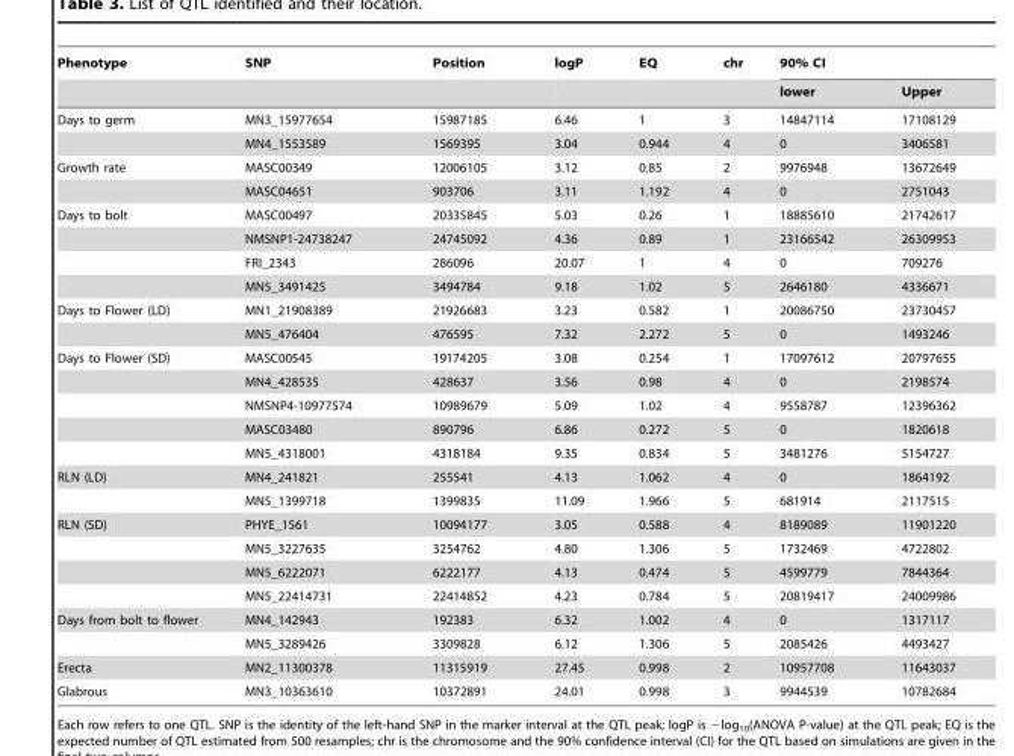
<table><thead><tr><td rowspan="2">Phenotype</td><td rowspan="2">SNP</td><td rowspan="2">Position</td><td rowspan="2">logP</td><td rowspan="2">EQ</td><td rowspan="2">chr</td><td colspan="2">90% CI</td></tr><tr><td>lower</td><td>Upper</td></tr></thead><tbody><tr><td rowspan="2">Days to germ</td><td>MN3_15977654</td><td>15987185</td><td>6.46</td><td>1</td><td>3</td><td>14847114</td><td>17108129</td></tr><tr><td>MN4_1553589</td><td>1569395</td><td>3.04</td><td>0.944</td><td>4</td><td>0</td><td>3406581</td></tr><tr><td rowspan="2">Growth rate</td><td>MASC00349</td><td>12006105</td><td>3.12</td><td>0.85</td><td>2</td><td>9976948</td><td>13672649</td></tr><tr><td>MASC04651</td><td>903706</td><td>3.11</td><td>1.192</td><td>4</td><td>0</td><td>2751043</td></tr><tr><td rowspan="4">Days to bolt</td><td>MASC00497</td><td>20335845</td><td>5.03</td><td>0.26</td><td>1</td><td>18885610</td><td>21742617</td></tr><tr><td>NMSNP1-24738247</td><td>24745092</td><td>4.36</td><td>0.89</td><td>1</td><td>23166542</td><td>26309953</td></tr><tr><td>FRI_2343</td><td>286096</td><td>20.07</td><td>1</td><td>4</td><td>0</td><td>709276</td></tr><tr><td>MN5_3491425</td><td>3494784</td><td>9.18</td><td>1.02</td><td>5</td><td>2646180</td><td>4336671</td></tr><tr><td rowspan="2">Days to Flower (LD)</td><td>MN1_21908389</td><td>21926683</td><td>3.23</td><td>0.582</td><td>1</td><td>20086750</td><td>23730457</td></tr><tr><td>MN5_476404</td><td>476595</td><td>7.32</td><td>2.272</td><td>5</td><td>0</td><td>1493246</td></tr><tr><td rowspan="5">Days to Flower (SD)</td><td>MASC00545</td><td>19174205</td><td>3.08</td><td>0.254</td><td>1</td><td>17097612</td><td>20797655</td></tr><tr><td>MN4_428535</td><td>428637</td><td>3.56</td><td>0.98</td><td>4</td><td>0</td><td>2198574</td></tr><tr><td>NMSNP4-10977574</td><td>10989679</td><td>5.09</td><td>1.02</td><td>4</td><td>9558787</td><td>12396362</td></tr><tr><td>MASC03480</td><td>890796</td><td>6.86</td><td>0.272</td><td>5</td><td>0</td><td>1820618</td></tr><tr><td>MN5_4318001</td><td>4318184</td><td>9.35</td><td>0.834</td><td>5</td><td>3481276</td><td>5154727</td></tr><tr><td rowspan="2">RLN (LD)</td><td>MN4_241821</td><td>255541</td><td>4.13</td><td>1.062</td><td>4</td><td>0</td><td>1864192</td></tr><tr><td>MN5_1399718</td><td>1399835</td><td>11.09</td><td>1.966</td><td>5</td><td>681914</td><td>2117515</td></tr><tr><td rowspan="4">RLN (SD)</td><td>PHYE_1561</td><td>10094177</td><td>3.05</td><td>0.588</td><td>4</td><td>8189089</td><td>11901220</td></tr><tr><td>MN5_3227635</td><td>3254762</td><td>4.80</td><td>1.306</td><td>5</td><td>1732469</td><td>4722802</td></tr><tr><td>MN5_6222071</td><td>6222177</td><td>4.13</td><td>0.474</td><td>5</td><td>4599779</td><td>7844364</td></tr><tr><td>MN5_22414731</td><td>22414852</td><td>4.23</td><td>0.784</td><td>5</td><td>20819417</td><td>24009986</td></tr><tr><td rowspan="2">Days from bolt to flower</td><td>MN4_142943</td><td>192383</td><td>6.32</td><td>1.002</td><td>4</td><td>0</td><td>1317117</td></tr><tr><td>MN5_3289426</td><td>3309828</td><td>6.12</td><td>1.306</td><td>5</td><td>2085426</td><td>4493427</td></tr><tr><td>Erecta</td><td>MN2_11300378</td><td>11315919</td><td>27.45</td><td>0.998</td><td>2</td><td>10957708</td><td>11643037</td></tr><tr><td>Glabrous</td><td>MN3_10363610</td><td>10372891</td><td>24.01</td><td>0.998</td><td>3</td><td>9944539</td><td>10782684</td></tr></tbody></table>